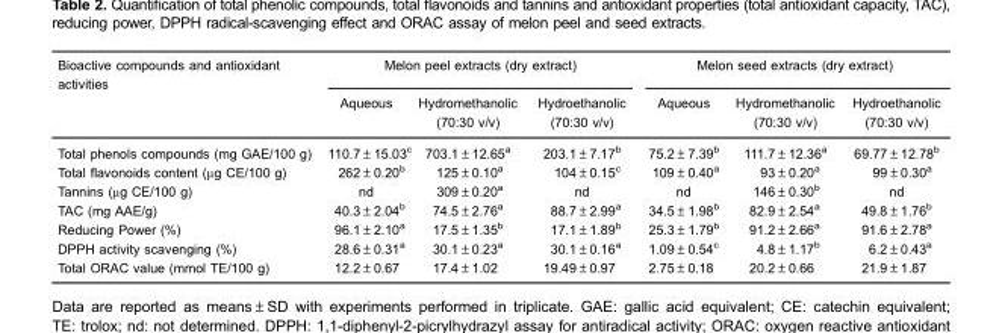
<table><thead><tr><td rowspan="2">Bioactive compounds and antioxidant activities</td><td colspan="3">Melon peel extracts (dry extract)</td><td colspan="3">Melon seed extracts (dry extract)</td></tr><tr><td>Aqueous</td><td>Hydromethanolic (70:30 v/v)</td><td>Hydroethanolic (70:30 v/v)</td><td>Aqueous</td><td>Hydromethanolic (70:30 v/v)</td><td>Hydroethanolic (70:30 v/v)</td></tr></thead><tbody><tr><td>Total phenols compounds (mg GAE/100 g)</td><td>110.7±15.03<sup>c</sup></td><td>703.1±12.65<sup>a</sup></td><td>203.1±7.17<sup>b</sup></td><td>75.2±7.39<sup>b</sup></td><td>111.7±12.36<sup>a</sup></td><td>69.77±12.78<sup>b</sup></td></tr><tr><td>Total flavonoids content (µg CE/100 g)</td><td>262±0.20<sup>b</sup></td><td>125±0.10<sup>a</sup></td><td>104±0.15<sup>c</sup></td><td>109±0.40<sup>a</sup></td><td>93±0.20<sup>a</sup></td><td>99±0.30<sup>a</sup></td></tr><tr><td>Tannins (µg CE/100 g)</td><td>nd</td><td>309±0.20<sup>a</sup></td><td>nd</td><td>nd</td><td>146±0.30<sup>b</sup></td><td>nd</td></tr><tr><td>TAC (mg AAE/g)</td><td>40.3±2.04<sup>b</sup></td><td>74.5±2.76<sup>a</sup></td><td>88.7±2.99<sup>a</sup></td><td>34.5±1.98<sup>b</sup></td><td>82.9±2.54<sup>a</sup></td><td>49.8±1.76<sup>b</sup></td></tr><tr><td>Reducing Power (%)</td><td>96.1±2.10<sup>a</sup></td><td>17.5±1.35<sup>b</sup></td><td>17.1±1.89<sup>b</sup></td><td>25.3±1.79<sup>b</sup></td><td>91.2±2.66<sup>a</sup></td><td>91.6±2.78<sup>a</sup></td></tr><tr><td>DPPH activity scavenging (%)</td><td>28.6±0.31<sup>a</sup></td><td>30.1±0.23<sup>a</sup></td><td>30.1±0.16<sup>a</sup></td><td>1.09±0.54<sup>c</sup></td><td>4.8±1.17<sup>b</sup></td><td>6.2±0.43<sup>a</sup></td></tr><tr><td>Total ORAC value (mmol TE/100 g)</td><td>12.2±0.67</td><td>17.4±1.02</td><td>19.49±0.97</td><td>2.75±0.18</td><td>20.2±0.66</td><td>21.9±1.87</td></tr></tbody></table>